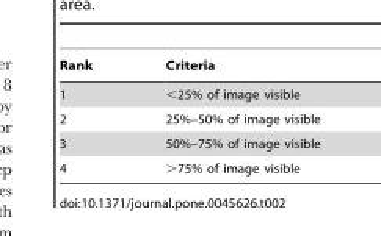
<table><thead><tr><td>Rank</td><td>Criteria</td></tr></thead><tbody><tr><td>1</td><td>&lt;25% of image visible</td></tr><tr><td>2</td><td>25%–50% of image visible</td></tr><tr><td>3</td><td>50%–75% of image visible</td></tr><tr><td>4</td><td>&gt;75% of image visible</td></tr></tbody></table>